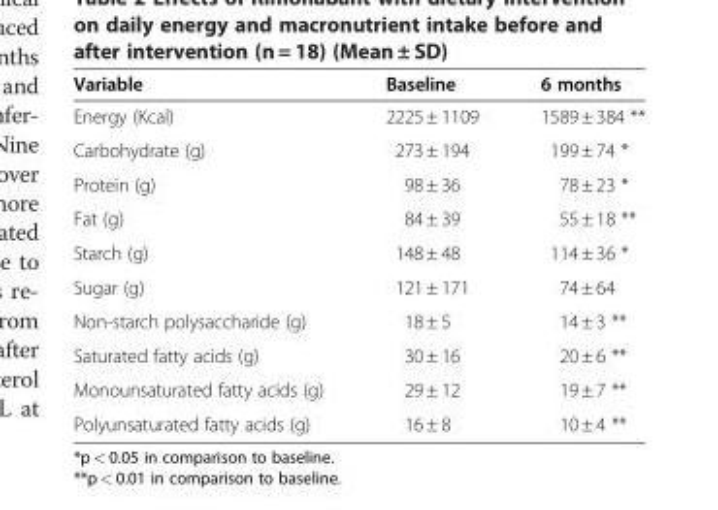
<table><thead><tr><td>Variable</td><td>Baseline</td><td>6 months</td></tr></thead><tbody><tr><td>Energy (Kcal)</td><td>2225 ± 1109</td><td>1589 ± 384 **</td></tr><tr><td>Carbohydrate (g)</td><td>273 ± 194</td><td>199 ± 74 *</td></tr><tr><td>Protein (g)</td><td>98 ± 36</td><td>78 ± 23 *</td></tr><tr><td>Fat (g)</td><td>84 ± 39</td><td>55 ± 18 **</td></tr><tr><td>Starch (g)</td><td>148 ± 48</td><td>114 ± 36 *</td></tr><tr><td>Sugar (g)</td><td>121 ± 171</td><td>74 ± 64</td></tr><tr><td>Non-starch polysaccharide (g)</td><td>18 ± 5</td><td>14 ± 3 **</td></tr><tr><td>Saturated fatty acids (g)</td><td>30 ± 16</td><td>20 ± 6 **</td></tr><tr><td>Monounsaturated fatty acids (g)</td><td>29 ± 12</td><td>19 ± 7 **</td></tr><tr><td>Polyunsaturated fatty acids (g)</td><td>16 ± 8</td><td>10 ± 4 **</td></tr></tbody></table>